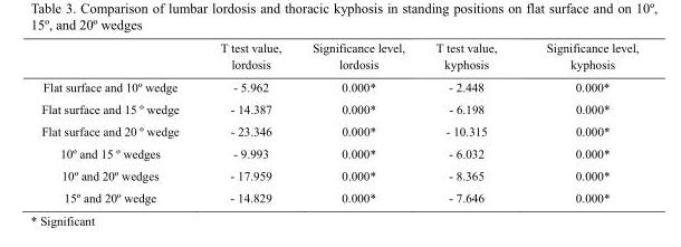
<table><thead><tr><td></td><td>T test value, lordosis</td><td>Significance level, lordosis</td><td>T test value, kyphosis</td><td>Significance level, kyphosis</td></tr></thead><tbody><tr><td>Flat surface and 10º wedge</td><td>- 5.962</td><td>0.000*</td><td>- 2.448</td><td>0.000*</td></tr><tr><td>Flat surface and 15 º wedge</td><td>- 14.387</td><td>0.000*</td><td>- 6.198</td><td>0.000*</td></tr><tr><td>Flat surface and 20 º wedge</td><td>- 23.346</td><td>0.000*</td><td>- 10.315</td><td>0.000*</td></tr><tr><td>10º and 15 º wedges</td><td>- 9.993</td><td>0.000*</td><td>- 6.032</td><td>0.000*</td></tr><tr><td>10º and 20º wedges</td><td>- 17.959</td><td>0.000*</td><td>- 8.365</td><td>0.000*</td></tr><tr><td>15º and 20º wedge</td><td>- 14.829</td><td>0.000*</td><td>- 7.646</td><td>0.000*</td></tr></tbody></table>